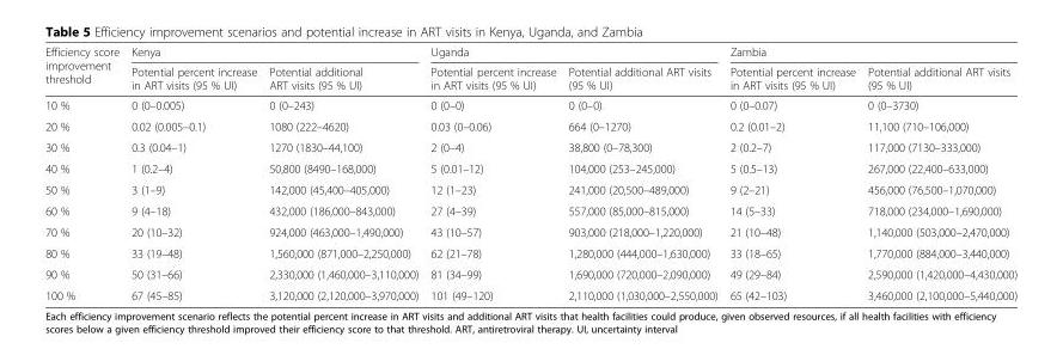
<table><thead><tr><td rowspan="2">Efficiency score improvement threshold</td><td colspan="2">Kenya</td><td colspan="2">Uganda</td><td colspan="2">Zambia</td></tr><tr><td>Potential percent increase in ART visits (95 % UI)</td><td>Potential additional ART visits (95 % UI)</td><td>Potential percent increase in ART visits (95 % UI)</td><td>Potential additional ART visits (95 % UI)</td><td>Potential percent increase in ART visits (95 % UI)</td><td>Potential additional ART visits (95 % UI)</td></tr></thead><tbody><tr><td>10 %</td><td>0 (0–0.005)</td><td>0 (0–243)</td><td>0 (0–0)</td><td>0 (0–0)</td><td>0 (0–0.07)</td><td>0 (0–3730)</td></tr><tr><td>20 %</td><td>0.02 (0.005–0.1)</td><td>1080 (222–4620)</td><td>0.03 (0–0.06)</td><td>664 (0–1270)</td><td>0.2 (0.01–2)</td><td>11,100 (710–106,000)</td></tr><tr><td>30 %</td><td>0.3 (0.04–1)</td><td>1270 (1830–44,100)</td><td>2 (0–4)</td><td>38,800 (0–78,300)</td><td>2 (0.2–7)</td><td>117,000 (7130–333,000)</td></tr><tr><td>40 %</td><td>1 (0.2–4)</td><td>50,800 (8490–168,000)</td><td>5 (0.01–12)</td><td>104,000 (253–245,000)</td><td>5 (0.5–13)</td><td>267,000 (22,400–633,000)</td></tr><tr><td>50 %</td><td>3 (1–9)</td><td>142,000 (45,400–405,000)</td><td>12 (1–23)</td><td>241,000 (20,500–489,000)</td><td>9 (2–21)</td><td>456,000 (76,500–1,070,000)</td></tr><tr><td>60 %</td><td>9 (4–18)</td><td>432,000 (186,000–843,000)</td><td>27 (4–39)</td><td>557,000 (85,000–815,000)</td><td>14 (5–33)</td><td>718,000 (234,000–1,690,000)</td></tr><tr><td>70 %</td><td>20 (10–32)</td><td>924,000 (463,000–1,490,000)</td><td>43 (10–57)</td><td>903,000 (218,000–1,220,000)</td><td>21 (10–48)</td><td>1,140,000 (503,000–2,470,000)</td></tr><tr><td>80 %</td><td>33 (19–48)</td><td>1,560,000 (871,000–2,250,000)</td><td>62 (21–78)</td><td>1,280,000 (444,000–1,630,000)</td><td>33 (18–65)</td><td>1,770,000 (884,000–3,440,000)</td></tr><tr><td>90 %</td><td>50 (31–66)</td><td>2,330,000 (1,460,000–3,110,000)</td><td>81 (34–99)</td><td>1,690,000 (720,000–2,090,000)</td><td>49 (29–84)</td><td>2,590,000 (1,420,000–4,430,000)</td></tr><tr><td>100 %</td><td>67 (45–85)</td><td>3,120,000 (2,120,000–3,970,000)</td><td>101 (49–120)</td><td>2,110,000 (1,030,000–2,550,000)</td><td>65 (42–103)</td><td>3,460,000 (2,100,000–5,440,000)</td></tr></tbody></table>